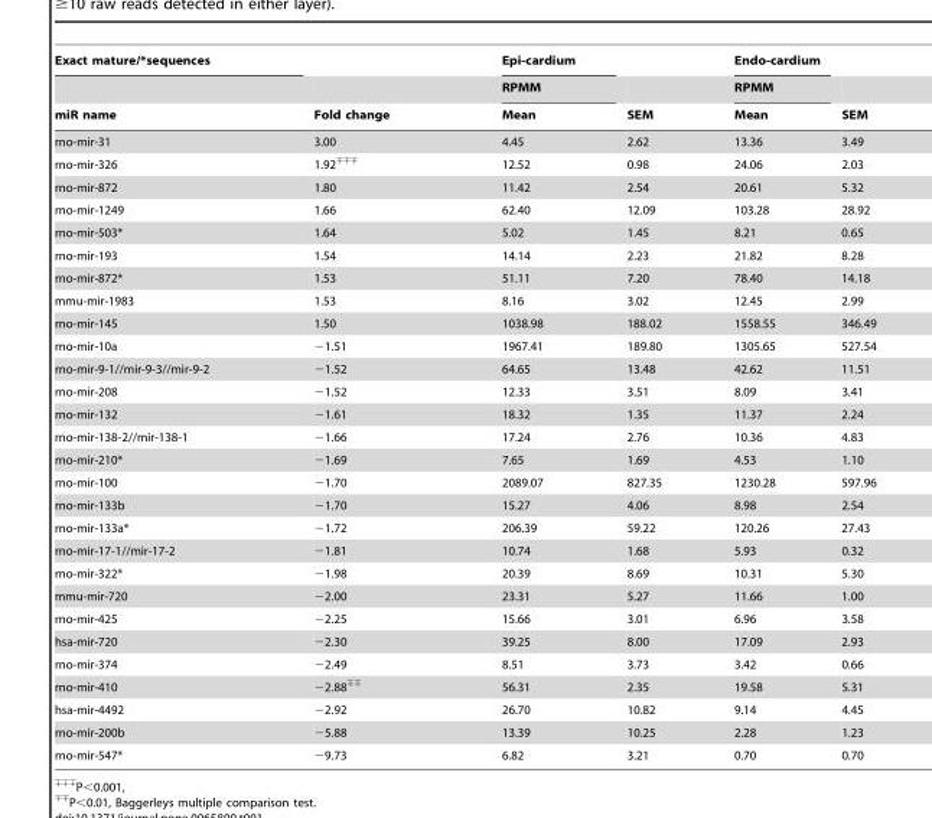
<table><thead><tr><td rowspan="3">Exact mature/*sequences miR name</td><td rowspan="3">Fold change</td><td rowspan="3">Epi-cardium RPMM Mean</td><td rowspan="3">SEM</td><td rowspan="3">Endo-cardium RPMM Mean</td><td rowspan="3">SEM</td></tr><tr></tr><tr></tr></thead><tbody><tr><td>rno-mir-31</td><td>3.00</td><td>4.45</td><td>2.62</td><td>13.36</td><td>3.49</td></tr><tr><td>rno-mir-326</td><td>1.92%%%</td><td>12.52</td><td>0.98</td><td>24.06</td><td>2.03</td></tr><tr><td>rno-mir-872</td><td>1.80</td><td>11.42</td><td>2.54</td><td>20.61</td><td>5.32</td></tr><tr><td>rno-mir-1249</td><td>1.66</td><td>62.40</td><td>12.09</td><td>103.28</td><td>28.92</td></tr><tr><td>rno-mir-503*</td><td>1.64</td><td>5.02</td><td>1.45</td><td>8.21</td><td>0.65</td></tr><tr><td>rno-mir-193</td><td>1.54</td><td>14.14</td><td>2.23</td><td>21.82</td><td>8.28</td></tr><tr><td>rno-mir-872*</td><td>1.53</td><td>51.11</td><td>7.20</td><td>78.40</td><td>14.18</td></tr><tr><td>mmu-mir-1983</td><td>1.53</td><td>8.16</td><td>3.02</td><td>12.45</td><td>2.99</td></tr><tr><td>rno-mir-145</td><td>1.50</td><td>1038.98</td><td>188.02</td><td>1558.55</td><td>346.49</td></tr><tr><td>rno-mir-10a</td><td>−1.51</td><td>1967.41</td><td>189.80</td><td>1305.65</td><td>527.54</td></tr><tr><td>rno-mir-9-1//mir-9-3//mir-9-2</td><td>−1.52</td><td>64.65</td><td>13.48</td><td>42.62</td><td>11.51</td></tr><tr><td>rno-mir-208</td><td>−1.52</td><td>12.33</td><td>3.51</td><td>8.09</td><td>3.41</td></tr><tr><td>rno-mir-132</td><td>−1.61</td><td>18.32</td><td>1.35</td><td>11.37</td><td>2.24</td></tr><tr><td>rno-mir-138-2//mir-138-1</td><td>−1.66</td><td>17.24</td><td>2.76</td><td>10.36</td><td>4.83</td></tr><tr><td>rno-mir-210*</td><td>−1.69</td><td>7.65</td><td>1.69</td><td>4.53</td><td>1.10</td></tr><tr><td>rno-mir-100</td><td>−1.70</td><td>2089.07</td><td>827.35</td><td>1230.28</td><td>597.96</td></tr><tr><td>rno-mir-133b</td><td>−1.70</td><td>15.27</td><td>4.06</td><td>8.98</td><td>2.54</td></tr><tr><td>rno-mir-133a*</td><td>−1.72</td><td>206.39</td><td>59.22</td><td>120.26</td><td>27.43</td></tr><tr><td>rno-mir-17-1//mir-17-2</td><td>−1.81</td><td>10.74</td><td>1.68</td><td>5.93</td><td>0.32</td></tr><tr><td>rno-mir-322*</td><td>−1.98</td><td>20.39</td><td>8.69</td><td>10.31</td><td>5.30</td></tr><tr><td>mmu-mir-720</td><td>−2.00</td><td>23.31</td><td>5.27</td><td>11.66</td><td>1.00</td></tr><tr><td>rno-mir-425</td><td>−2.25</td><td>15.66</td><td>3.01</td><td>6.96</td><td>3.58</td></tr><tr><td>hsa-mir-720</td><td>−2.30</td><td>39.25</td><td>8.00</td><td>17.09</td><td>2.93</td></tr><tr><td>rno-mir-374</td><td>−2.49</td><td>8.51</td><td>3.73</td><td>3.42</td><td>0.66</td></tr><tr><td>rno-mir-410</td><td>22.88%%</td><td>56.31</td><td>2.35</td><td>19.58</td><td>5.31</td></tr><tr><td>hsa-mir-4492</td><td>−2.92</td><td>26.70</td><td>10.82</td><td>9.14</td><td>4.45</td></tr><tr><td>rno-mir-200b</td><td>−5.88</td><td>13.39</td><td>10.25</td><td>2.28</td><td>1.23</td></tr><tr><td>rno-mir-547*</td><td>−9.73</td><td>6.82</td><td>3.21</td><td>0.70</td><td>0.70</td></tr></tbody></table>